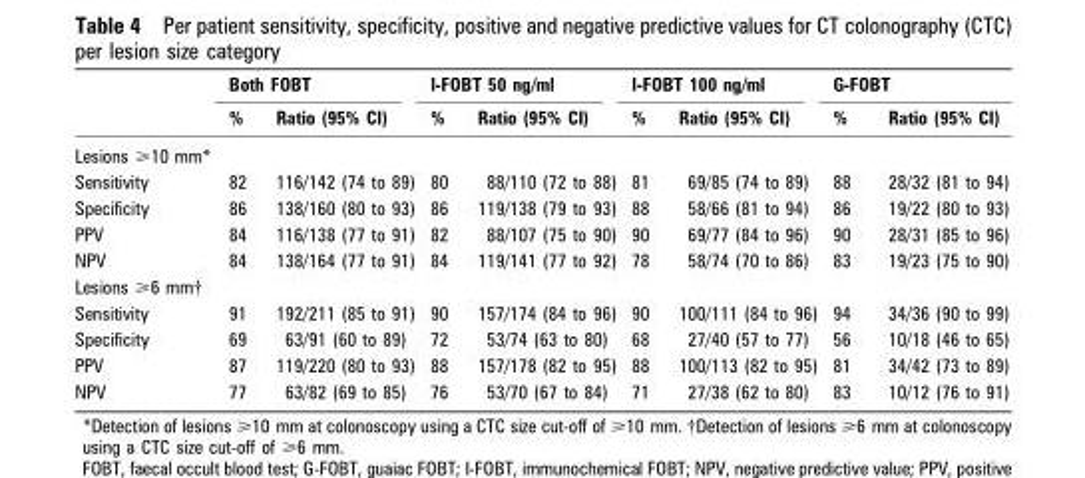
<table><thead><tr><td rowspan="2"></td><td colspan="2">Both FOBT</td><td colspan="2">I-FOBT 50 ng/ml</td><td colspan="2">I-FOBT 100 ng/ml</td><td colspan="2">G-FOBT</td></tr><tr><td>%</td><td>Ratio (95% CI)</td><td>%</td><td>Ratio (95% CI)</td><td>%</td><td>Ratio (95% CI)</td><td>%</td><td>Ratio (95% CI)</td></tr></thead><tbody><tr><td colspan="9">Lesions &gt;10 mm*</td></tr><tr><td>Sensitivity</td><td>82</td><td>116/142 (74 to 89)</td><td>80</td><td>88/110 (72 to 88)</td><td>81</td><td>69/85 (74 to 89)</td><td>88</td><td>28/32 (81 to 94)</td></tr><tr><td>Specificity</td><td>86</td><td>138/160 (80 to 93)</td><td>86</td><td>119/138 (79 to 93)</td><td>88</td><td>58/66 (81 to 94)</td><td>86</td><td>19/22 (80 to 93)</td></tr><tr><td>PPV</td><td>84</td><td>116/138 (77 to 91)</td><td>82</td><td>88/107 (75 to 90)</td><td>90</td><td>69/77 (84 to 96)</td><td>90</td><td>28/31 (85 to 96)</td></tr><tr><td>NPV</td><td>84</td><td>138/164 (77 to 91)</td><td>84</td><td>119/141 (77 to 92)</td><td>78</td><td>58/74 (70 to 86)</td><td>83</td><td>19/23 (75 to 90)</td></tr><tr><td colspan="9">Lesions &gt;6 mm{</td></tr><tr><td>Sensitivity</td><td>91</td><td>192/211 (85 to 91)</td><td>90</td><td>157/174 (84 to 96)</td><td>90</td><td>100/111 (84 to 96)</td><td>94</td><td>34/36 (90 to 99)</td></tr><tr><td>Specificity</td><td>69</td><td>63/91 (60 to 89)</td><td>72</td><td>53/74 (63 to 80)</td><td>68</td><td>27/40 (57 to 77)</td><td>56</td><td>10/18 (46 to 65)</td></tr><tr><td>PPV</td><td>87</td><td>119/220 (80 to 93)</td><td>88</td><td>157/178 (82 to 95)</td><td>88</td><td>100/113 (82 to 95)</td><td>81</td><td>34/42 (73 to 89)</td></tr><tr><td>NPV</td><td>77</td><td>63/82 (69 to 85)</td><td>76</td><td>53/70 (67 to 84)</td><td>71</td><td>27/38 (62 to 80)</td><td>83</td><td>10/12 (76 to 91)</td></tr></tbody></table>